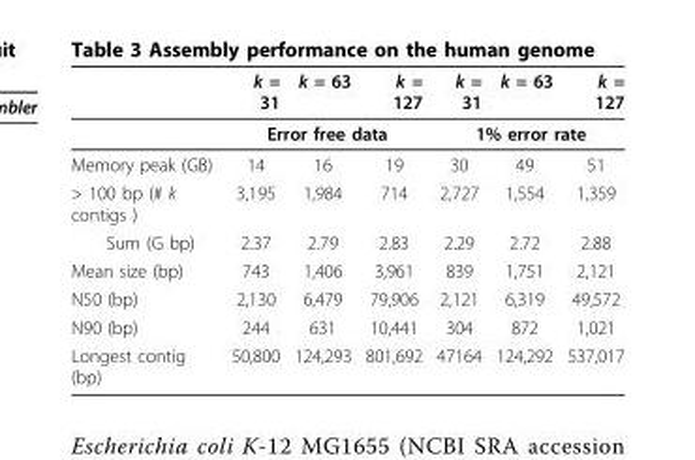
<table><thead><tr><td></td><td>k = 31</td><td>k = 63</td><td>k = 127</td><td>k = 31</td><td>k = 63</td><td>k = 127</td></tr></thead><tbody><tr><td></td><td colspan="3">Error free data</td><td colspan="3">1% error rate</td></tr><tr><td>Memory peak (GB)</td><td>14</td><td>16</td><td>19</td><td>30</td><td>49</td><td>51</td></tr><tr><td>&gt; 100 bp (# k contigs )</td><td>3,195</td><td>1,984</td><td>714</td><td>2,727</td><td>1,554</td><td>1,359</td></tr><tr><td>Sum (G bp)</td><td>2.37</td><td>2.79</td><td>2.83</td><td>2.29</td><td>2.72</td><td>2.88</td></tr><tr><td>Mean size (bp)</td><td>743</td><td>1,406</td><td>3,961</td><td>839</td><td>1,751</td><td>2,121</td></tr><tr><td>N50 (bp)</td><td>2,130</td><td>6,479</td><td>79,906</td><td>2,121</td><td>6,319</td><td>49,572</td></tr><tr><td>N90 (bp)</td><td>244</td><td>631</td><td>10,441</td><td>304</td><td>872</td><td>1,021</td></tr><tr><td>Longest contig (bp)</td><td>50,800</td><td>124,293</td><td>801,692</td><td>47164</td><td>124,292</td><td>537,017</td></tr></tbody></table>